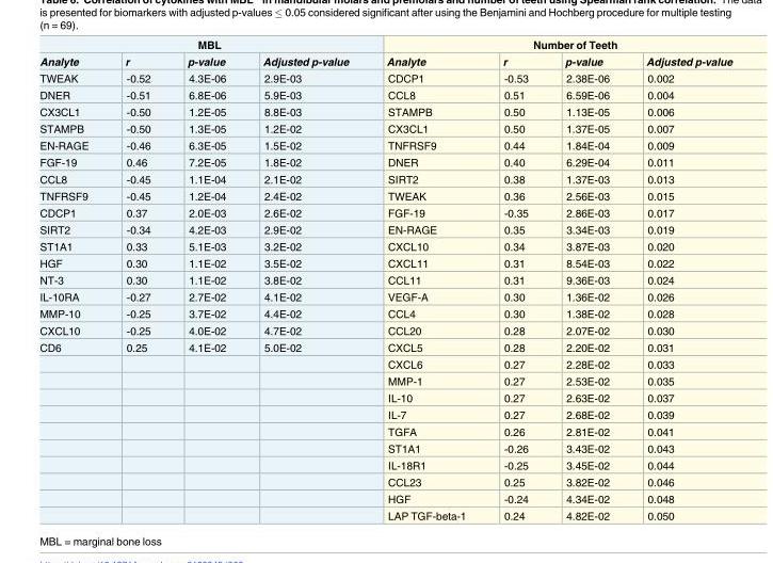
<table><thead><tr><td colspan="4">MBL</td><td colspan="4">Number of Teeth</td></tr><tr><td>Analyte</td><td>r</td><td>p-value</td><td>Adjusted p-value</td><td>Analyte</td><td>r</td><td>p-value</td><td>Adjusted p-value</td></tr></thead><tbody><tr><td>TWEAK</td><td>-0.52</td><td>4.3E-06</td><td>2.9E-03</td><td>CDCP1</td><td>-0.53</td><td>2.38E-06</td><td>0.002</td></tr><tr><td>DNER</td><td>-0.51</td><td>6.8E-06</td><td>5.9E-03</td><td>CCL8</td><td>0.51</td><td>6.59E-06</td><td>0.004</td></tr><tr><td>CX3CL1</td><td>-0.50</td><td>1.2E-05</td><td>8.8E-03</td><td>STAMPB</td><td>0.50</td><td>1.13E-05</td><td>0.006</td></tr><tr><td>STAMPB</td><td>-0.50</td><td>1.3E-05</td><td>1.2E-02</td><td>CX3CL1</td><td>0.50</td><td>1.37E-05</td><td>0.007</td></tr><tr><td>EN-RAGE</td><td>-0.46</td><td>6.3E-05</td><td>1.5E-02</td><td>TNFRSF9</td><td>0.44</td><td>1.84E-04</td><td>0.009</td></tr><tr><td>FGF-19</td><td>0.46</td><td>7.2E-05</td><td>1.8E-02</td><td>DNER</td><td>0.40</td><td>6.29E-04</td><td>0.011</td></tr><tr><td>CCL8</td><td>-0.45</td><td>1.1E-04</td><td>2.1E-02</td><td>SIRT2</td><td>0.38</td><td>1.37E-03</td><td>0.013</td></tr><tr><td>TNFRSF9</td><td>-0.45</td><td>1.2E-04</td><td>2.4E-02</td><td>TWEAK</td><td>0.36</td><td>2.56E-03</td><td>0.015</td></tr><tr><td>CDCP1</td><td>0.37</td><td>2.0E-03</td><td>2.6E-02</td><td>FGF-19</td><td>-0.35</td><td>2.86E-03</td><td>0.017</td></tr><tr><td>SIRT2</td><td>-0.34</td><td>4.2E-03</td><td>2.9E-02</td><td>EN-RAGE</td><td>0.35</td><td>3.34E-03</td><td>0.019</td></tr><tr><td>ST1A1</td><td>0.33</td><td>5.1E-03</td><td>3.2E-02</td><td>CXCL10</td><td>0.34</td><td>3.87E-03</td><td>0.020</td></tr><tr><td>HGF</td><td>0.30</td><td>1.1E-02</td><td>3.5E-02</td><td>CXCL11</td><td>0.31</td><td>8.54E-03</td><td>0.022</td></tr><tr><td>NT-3</td><td>0.30</td><td>1.1E-02</td><td>3.8E-02</td><td>CCL11</td><td>0.31</td><td>9.36E-03</td><td>0.024</td></tr><tr><td>IL-10RA</td><td>-0.27</td><td>2.7E-02</td><td>4.1E-02</td><td>VEGF-A</td><td>0.30</td><td>1.36E-02</td><td>0.026</td></tr><tr><td>MMP-10</td><td>-0.25</td><td>3.7E-02</td><td>4.4E-02</td><td>CCL4</td><td>0.30</td><td>1.38E-02</td><td>0.028</td></tr><tr><td>CXCL10</td><td>-0.25</td><td>4.0E-02</td><td>4.7E-02</td><td>CCL20</td><td>0.28</td><td>2.07E-02</td><td>0.030</td></tr><tr><td rowspan="11">CD6</td><td>0.25</td><td>4.1E-02</td><td>5.0E-02</td><td>CXCL5</td><td>0.28</td><td>2.20E-02</td><td>0.031</td></tr><tr><td></td><td></td><td></td><td>CXCL6</td><td>0.27</td><td>2.28E-02</td><td>0.033</td></tr><tr><td></td><td></td><td></td><td>MMP-1</td><td>0.27</td><td>2.53E-02</td><td>0.035</td></tr><tr><td></td><td></td><td></td><td>IL-10</td><td>0.27</td><td>2.63E-02</td><td>0.037</td></tr><tr><td></td><td></td><td></td><td>IL-7</td><td>0.27</td><td>2.68E-02</td><td>0.039</td></tr><tr><td></td><td></td><td></td><td>TGFA</td><td>0.26</td><td>2.81E-02</td><td>0.041</td></tr><tr><td></td><td></td><td></td><td>ST1A1</td><td>-0.26</td><td>3.43E-02</td><td>0.043</td></tr><tr><td></td><td></td><td></td><td>IL-18R1</td><td>-0.25</td><td>3.45E-02</td><td>0.044</td></tr><tr><td></td><td></td><td></td><td>CCL23</td><td>0.25</td><td>3.82E-02</td><td>0.046</td></tr><tr><td></td><td></td><td></td><td>HGF</td><td>-0.24</td><td>4.34E-02</td><td>0.048</td></tr><tr><td></td><td></td><td></td><td>LAP TGF-beta-1</td><td>0.24</td><td>4.82E-02</td><td>0.050</td></tr></tbody></table>